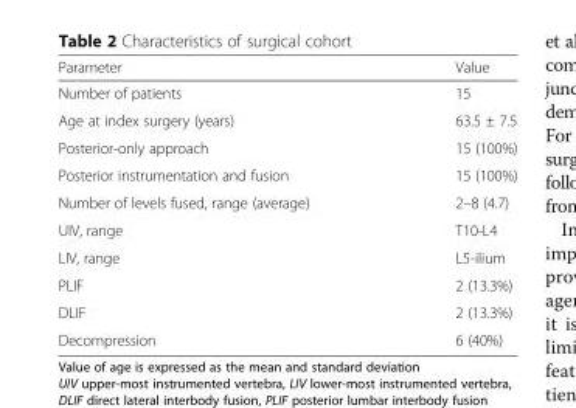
<table><thead><tr><td>Parameter</td><td>Value</td></tr></thead><tbody><tr><td>Number of patients</td><td>15</td></tr><tr><td>Age at index surgery (years)</td><td>63.5 ± 7.5</td></tr><tr><td>Posterior-only approach</td><td>15 (100%)</td></tr><tr><td>Posterior instrumentation and fusion</td><td>15 (100%)</td></tr><tr><td>Number of levels fused, range (average)</td><td>2–8 (4.7)</td></tr><tr><td>UIV, range</td><td>T10-L4</td></tr><tr><td>LIV, range</td><td>L5-ilium</td></tr><tr><td>PLIF</td><td>2 (13.3%)</td></tr><tr><td>DLIF</td><td>2 (13.3%)</td></tr><tr><td>Decompression</td><td>6 (40%)</td></tr></tbody></table>